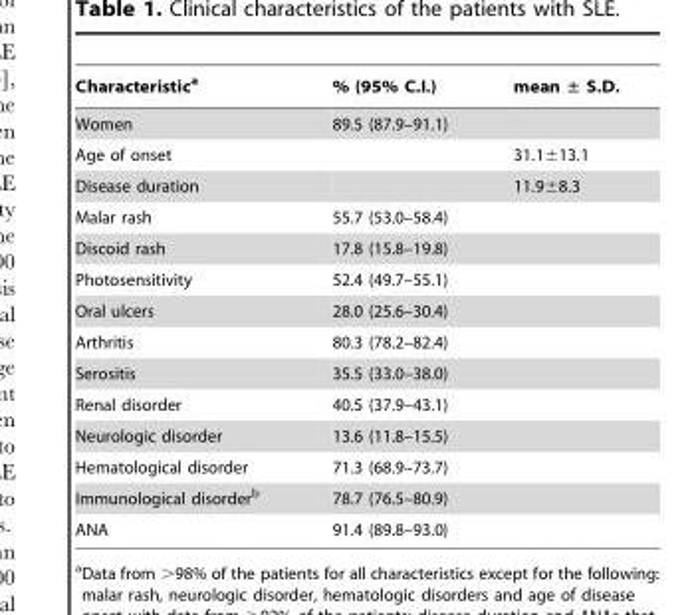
<table><thead><tr><td>Characteristic<sup>a</sup></td><td>% (95% C.I.)</td><td>mean ± S.D.</td></tr></thead><tbody><tr><td>Women</td><td>89.5 (87.9–91.1)</td><td></td></tr><tr><td>Age of onset</td><td></td><td>31.1±13.1</td></tr><tr><td>Disease duration</td><td></td><td>11.9±8.3</td></tr><tr><td>Malar rash</td><td>55.7 (53.0–58.4)</td><td></td></tr><tr><td>Discoid rash</td><td>17.8 (15.8–19.8)</td><td></td></tr><tr><td>Photosensitivity</td><td>52.4 (49.7–55.1)</td><td></td></tr><tr><td>Oral ulcers</td><td>28.0 (25.6–30.4)</td><td></td></tr><tr><td>Arthritis</td><td>80.3 (78.2–82.4)</td><td></td></tr><tr><td>Serositis</td><td>35.5 (33.0–38.0)</td><td></td></tr><tr><td>Renal disorder</td><td>40.5 (37.9–43.1)</td><td></td></tr><tr><td>Neurologic disorder</td><td>13.6 (11.8–15.5)</td><td></td></tr><tr><td>Hematological disorder</td><td>71.3 (68.9–73.7)</td><td></td></tr><tr><td>Immunological disorder<sup>b</sup></td><td>78.7 (76.5–80.9)</td><td></td></tr><tr><td>ANA</td><td>91.4 (89.8–93.0)</td><td></td></tr></tbody></table>